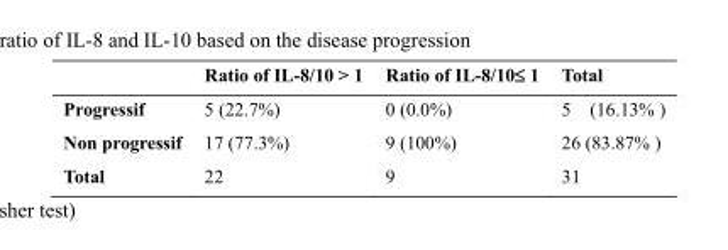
<table><thead><tr><td></td><td>Ratio of IL-8/10 &gt; 1</td><td>Ratio of IL-8/10≤ 1</td><td>Total</td></tr></thead><tbody><tr><td>Progressif</td><td>5 (22.7%)</td><td>0 (0.0%)</td><td>5 (16.13% )</td></tr><tr><td>Non progressif</td><td>17 (77.3%)</td><td>9 (100%)</td><td>26 (83.87% )</td></tr><tr><td>Total</td><td>22</td><td>9</td><td>31</td></tr></tbody></table>